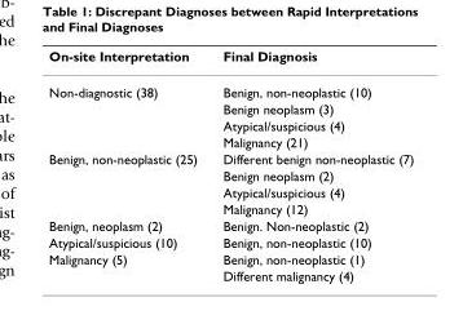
<table><thead><tr><td>On-site Interpretation</td><td>Final Diagnosis</td></tr></thead><tbody><tr><td rowspan="4">Non-diagnostic (38)</td><td>Benign, non-neoplastic (10)</td></tr><tr><td>Benign neoplasm (3)</td></tr><tr><td>Atypical/suspicious (4)</td></tr><tr><td>Malignancy (21)</td></tr><tr><td rowspan="4">Benign, non-neoplastic (25)</td><td>Different benign non-neoplastic (7)</td></tr><tr><td>Benign neoplasm (2)</td></tr><tr><td>Atypical/suspicious (4)</td></tr><tr><td>Malignancy (12)</td></tr><tr><td>Benign, neoplasm (2)</td><td>Benign. Non-neoplastic (2)</td></tr><tr><td>Atypical/suspicious (10)</td><td>Benign, non-neoplastic (10)</td></tr><tr><td rowspan="2">Malignancy (5)</td><td>Benign, non-neoplastic (1)</td></tr><tr><td>Different malignancy (4)</td></tr></tbody></table>